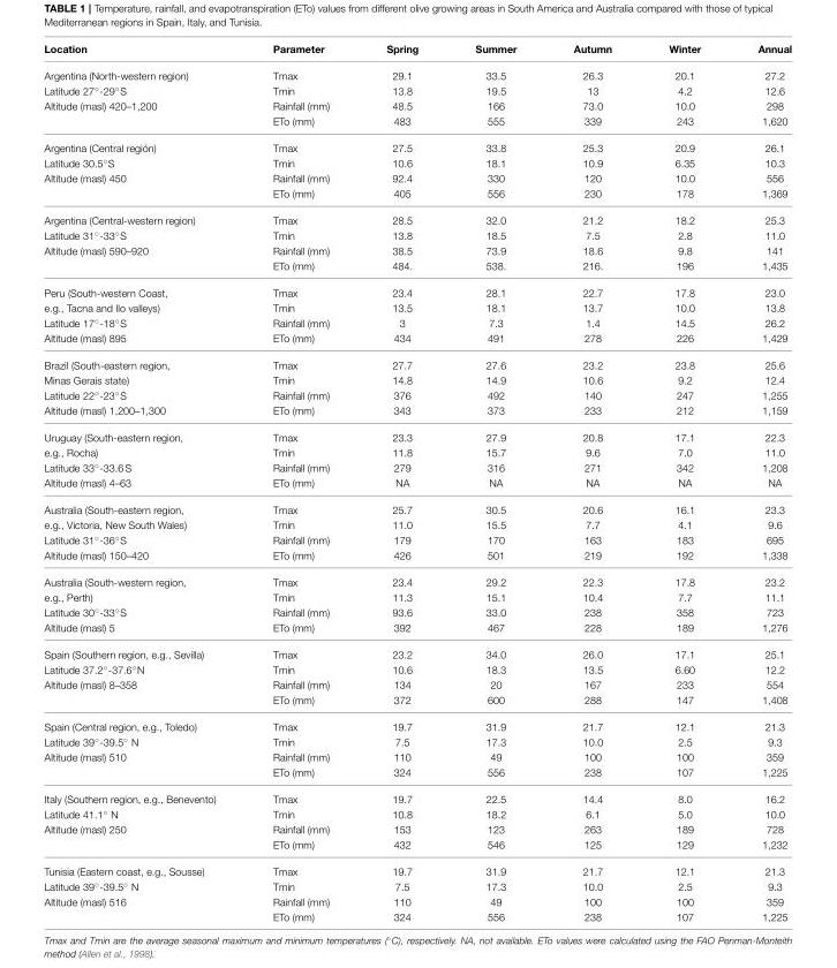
<table><thead><tr><td>Location</td><td>Parameter</td><td>Spring</td><td>Summer</td><td>Autumn</td><td>Winter</td><td>Annual</td></tr></thead><tbody><tr><td>Argentina (North-western region)</td><td>Tmax</td><td>29.1</td><td>33.5</td><td>26.3</td><td>20.1</td><td>27.2</td></tr><tr><td>Latitude 27◦-29◦S</td><td>Tmin</td><td>13.8</td><td>19.5</td><td>13</td><td>4.2</td><td>12.6</td></tr><tr><td rowspan="2">Altitude (masl) 420–1,200</td><td>Rainfall (mm)</td><td>48.5</td><td>166</td><td>73.0</td><td>10.0</td><td>298</td></tr><tr><td>ETo (mm)</td><td>483</td><td>555</td><td>339</td><td>243</td><td>1,620</td></tr><tr><td>Argentina (Central región)</td><td>Tmax</td><td>27.5</td><td>33.8</td><td>25.3</td><td>20.9</td><td>26.1</td></tr><tr><td>Latitude 30.5◦S</td><td>Tmin</td><td>10.6</td><td>18.1</td><td>10.9</td><td>6.35</td><td>10.3</td></tr><tr><td rowspan="2">Altitude (masl) 450</td><td>Rainfall (mm)</td><td>92.4</td><td>330</td><td>120</td><td>10.0</td><td>556</td></tr><tr><td>ETo (mm)</td><td>405</td><td>556</td><td>230</td><td>178</td><td>1,369</td></tr><tr><td>Argentina (Central-western region)</td><td>Tmax</td><td>28.5</td><td>32.0</td><td>21.2</td><td>18.2</td><td>25.3</td></tr><tr><td>Latitude 31◦-33◦S</td><td>Tmin</td><td>13.8</td><td>18.5</td><td>7.5</td><td>2.8</td><td>11.0</td></tr><tr><td rowspan="2">Altitude (masl) 590–920</td><td>Rainfall (mm)</td><td>38.5</td><td>73.9</td><td>18.6</td><td>9.8</td><td>141</td></tr><tr><td>ETo (mm)</td><td>484.</td><td>538.</td><td>216.</td><td>196</td><td>1,435</td></tr><tr><td>Peru (South-western Coast,</td><td>Tmax</td><td>23.4</td><td>28.1</td><td>22.7</td><td>17.8</td><td>23.0</td></tr><tr><td>e.g., Tacna and Ilo valleys)</td><td>Tmin</td><td>13.5</td><td>18.1</td><td>13.7</td><td>10.0</td><td>13.8</td></tr><tr><td>Latitude 17◦-18◦S</td><td>Rainfall (mm)</td><td>3</td><td>7.3</td><td>1.4</td><td>14.5</td><td>26.2</td></tr><tr><td>Altitude (masl) 895</td><td>ETo (mm)</td><td>434</td><td>491</td><td>278</td><td>226</td><td>1,429</td></tr><tr><td>Brazil (South-eastern region,</td><td>Tmax</td><td>27.7</td><td>27.6</td><td>23.2</td><td>23.8</td><td>25.6</td></tr><tr><td>Minas Gerais state)</td><td>Tmin</td><td>14.8</td><td>14.9</td><td>10.6</td><td>9.2</td><td>12.4</td></tr><tr><td>Latitude 22◦-23◦S</td><td>Rainfall (mm)</td><td>376</td><td>492</td><td>140</td><td>247</td><td>1,255</td></tr><tr><td>Altitude (masl) 1,200–1,300</td><td>ETo (mm)</td><td>343</td><td>373</td><td>233</td><td>212</td><td>1,159</td></tr><tr><td>Uruguay (South-eastern region,</td><td>Tmax</td><td>23.3</td><td>27.9</td><td>20.8</td><td>17.1</td><td>22.3</td></tr><tr><td>e.g., Rocha)</td><td>Tmin</td><td>11.8</td><td>15.7</td><td>9.6</td><td>7.0</td><td>11.0</td></tr><tr><td>Latitude 33◦-33.6 S</td><td>Rainfall (mm)</td><td>279</td><td>316</td><td>271</td><td>342</td><td>1,208</td></tr><tr><td>Altitude (masl) 4–63</td><td>ETo (mm)</td><td>NA</td><td>NA</td><td>NA</td><td>NA</td><td>NA</td></tr><tr><td>Australia (South-eastern region,</td><td>Tmax</td><td>25.7</td><td>30.5</td><td>20.6</td><td>16.1</td><td>23.3</td></tr><tr><td>e.g., Victoria, New South Wales)</td><td>Tmin</td><td>11.0</td><td>15.5</td><td>7.7</td><td>4.1</td><td>9.6</td></tr><tr><td>Latitude 31◦-36◦S</td><td>Rainfall (mm)</td><td>179</td><td>170</td><td>163</td><td>183</td><td>695</td></tr><tr><td>Altitude (masl) 150–420</td><td>ETo (mm)</td><td>426</td><td>501</td><td>219</td><td>192</td><td>1,338</td></tr><tr><td>Australia (South-western region,</td><td>Tmax</td><td>23.4</td><td>29.2</td><td>22.3</td><td>17.8</td><td>23.2</td></tr><tr><td>e.g., Perth)</td><td>Tmin</td><td>11.3</td><td>15.1</td><td>10.4</td><td>7.7</td><td>11.1</td></tr><tr><td>Latitude 30◦-33◦S</td><td>Rainfall (mm)</td><td>93.6</td><td>33.0</td><td>238</td><td>358</td><td>723</td></tr><tr><td>Altitude (masl) 5</td><td>ETo (mm)</td><td>392</td><td>467</td><td>228</td><td>189</td><td>1,276</td></tr><tr><td>Spain (Southern region, e.g., Sevilla)</td><td>Tmax</td><td>23.2</td><td>34.0</td><td>26.0</td><td>17.1</td><td>25.1</td></tr><tr><td>Latitude 37.2◦-37.6◦N</td><td>Tmin</td><td>10.6</td><td>18.3</td><td>13.5</td><td>6.60</td><td>12.2</td></tr><tr><td rowspan="2">Altitude (masl) 8–358</td><td>Rainfall (mm)</td><td>134</td><td>20</td><td>167</td><td>233</td><td>554</td></tr><tr><td>ETo (mm)</td><td>372</td><td>600</td><td>288</td><td>147</td><td>1,408</td></tr><tr><td>Spain (Central region, e.g., Toledo)</td><td>Tmax</td><td>19.7</td><td>31.9</td><td>21.7</td><td>12.1</td><td>21.3</td></tr><tr><td>Latitude 39◦-39.5◦ N</td><td>Tmin</td><td>7.5</td><td>17.3</td><td>10.0</td><td>2.5</td><td>9.3</td></tr><tr><td rowspan="2">Altitude (masl) 510</td><td>Rainfall (mm)</td><td>110</td><td>49</td><td>100</td><td>100</td><td>359</td></tr><tr><td>ETo (mm)</td><td>324</td><td>556</td><td>238</td><td>107</td><td>1,225</td></tr><tr><td>Italy (Southern region, e.g., Benevento)</td><td>Tmax</td><td>19.7</td><td>22.5</td><td>14.4</td><td>8.0</td><td>16.2</td></tr><tr><td>Latitude 41.1◦ N</td><td>Tmin</td><td>10.8</td><td>18.2</td><td>6.1</td><td>5.0</td><td>10.0</td></tr><tr><td rowspan="2">Altitude (masl) 250</td><td>Rainfall (mm)</td><td>153</td><td>123</td><td>263</td><td>189</td><td>728</td></tr><tr><td>ETo (mm)</td><td>432</td><td>546</td><td>125</td><td>129</td><td>1,232</td></tr><tr><td>Tunisia (Eastern coast, e.g., Sousse)</td><td>Tmax</td><td>19.7</td><td>31.9</td><td>21.7</td><td>12.1</td><td>21.3</td></tr><tr><td>Latitude 39◦-39.5◦ N</td><td>Tmin</td><td>7.5</td><td>17.3</td><td>10.0</td><td>2.5</td><td>9.3</td></tr><tr><td rowspan="2">Altitude (masl) 516</td><td>Rainfall (mm)</td><td>110</td><td>49</td><td>100</td><td>100</td><td>359</td></tr><tr><td>ETo (mm)</td><td>324</td><td>556</td><td>238</td><td>107</td><td>1,225</td></tr></tbody></table>